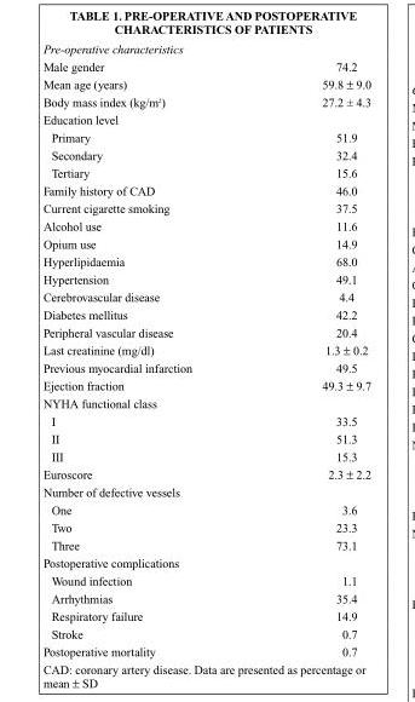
<table><thead><tr><td colspan="2">Pre-operative characteristics</td></tr><tr><td>Male gender</td><td>74.2</td></tr></thead><tbody><tr><td>Mean age (years)</td><td>59.8 ± 9.0</td></tr><tr><td>Body mass index (kg/m<sup>2</sup>)</td><td>27.2 ± 4.3</td></tr><tr><td colspan="2">Education level</td></tr><tr><td>Primary</td><td>51.9</td></tr><tr><td>Secondary</td><td>32.4</td></tr><tr><td>Tertiary</td><td>15.6</td></tr><tr><td>Family history of CAD</td><td>46.0</td></tr><tr><td>Current cigarette smoking</td><td>37.5</td></tr><tr><td>Alcohol use</td><td>11.6</td></tr><tr><td>Opium use</td><td>14.9</td></tr><tr><td>Hyperlipidaemia</td><td>68.0</td></tr><tr><td>Hypertension</td><td>49.1</td></tr><tr><td>Cerebrovascular disease</td><td>4.4</td></tr><tr><td>Diabetes mellitus</td><td>42.2</td></tr><tr><td>Peripheral vascular disease</td><td>20.4</td></tr><tr><td>Last creatinine (mg/dl)</td><td>1.3 ± 0.2</td></tr><tr><td>Previous myocardial infarction</td><td>49.5</td></tr><tr><td>Ejection fraction</td><td>49.3 ± 9.7</td></tr><tr><td colspan="2">NYHA functional class</td></tr><tr><td>I</td><td>33.5</td></tr><tr><td>II</td><td>51.3</td></tr><tr><td>III</td><td>15.3</td></tr><tr><td>Euroscore</td><td>2.3 ± 2.2</td></tr><tr><td colspan="2">Number of defective vessels</td></tr><tr><td>One</td><td>3.6</td></tr><tr><td>Two</td><td>23.3</td></tr><tr><td>Three</td><td>73.1</td></tr><tr><td colspan="2">Postoperative complications</td></tr><tr><td>Wound infection</td><td>1.1</td></tr><tr><td>Arrhythmias</td><td>35.4</td></tr><tr><td>Respiratory failure</td><td>14.9</td></tr><tr><td>Stroke</td><td>0.7</td></tr><tr><td>Postoperative mortality</td><td>0.7</td></tr></tbody></table>